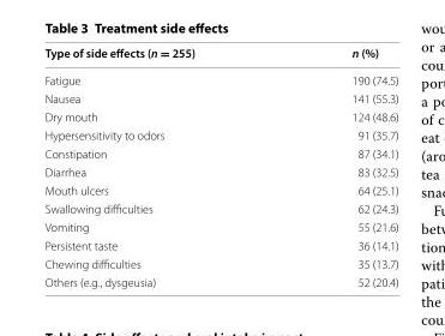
<table><thead><tr><td>Type of side effects (n = 255)</td><td>n (%)</td></tr></thead><tbody><tr><td>Fatigue</td><td>190 (74.5)</td></tr><tr><td>Nausea</td><td>141 (55.3)</td></tr><tr><td>Dry mouth</td><td>124 (48.6)</td></tr><tr><td>Hypersensitivity to odors</td><td>91 (35.7)</td></tr><tr><td>Constipation</td><td>87 (34.1)</td></tr><tr><td>Diarrhea</td><td>83 (32.5)</td></tr><tr><td>Mouth ulcers</td><td>64 (25.1)</td></tr><tr><td>Swallowing difficulties</td><td>62 (24.3)</td></tr><tr><td>Vomiting</td><td>55 (21.6)</td></tr><tr><td>Persistent taste</td><td>36 (14.1)</td></tr><tr><td>Chewing difficulties</td><td>35 (13.7)</td></tr><tr><td>Others (e.g., dysgeusia)</td><td>52 (20.4)</td></tr></tbody></table>